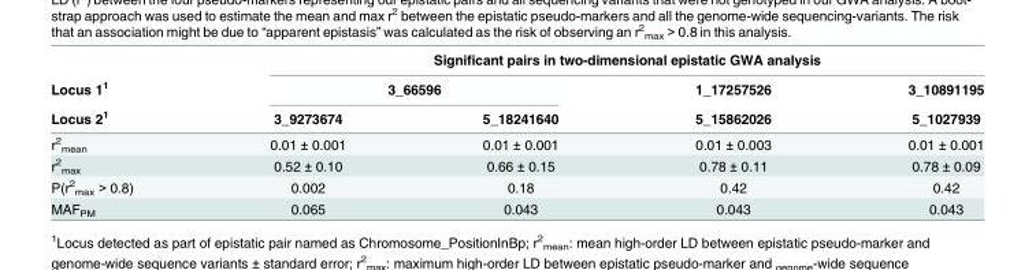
<table><thead><tr><td rowspan="3">Locus 1<sup>1</sup> Locus 2<sup>1</sup></td><td colspan="4">Significant pairs in two-dimensional epistatic GWA analysis</td></tr><tr><td colspan="2">3_66596</td><td rowspan="2">1_17257526 5_15862026</td><td rowspan="2">3_10891195 5_1027939</td></tr><tr><td>3_9273674</td><td>5_18241640</td></tr></thead><tbody><tr><td>r<sup>2</sup> <sub>mean</sub></td><td>0.01 ± 0.001</td><td>0.01 ± 0.001</td><td>0.01 ± 0.003</td><td>0.01 ± 0.001</td></tr><tr><td>r<sup>2</sup> <sub>max</sub></td><td>0.52 ± 0.10</td><td>0.66 ± 0.15</td><td>0.78 ± 0.11</td><td>0.78 ± 0.09</td></tr><tr><td>P(r<sup>2</sup> <sub>max</sub> &gt; 0.8)</td><td>0.002</td><td>0.18</td><td>0.42</td><td>0.42</td></tr><tr><td>MAF<sub>PM</sub></td><td>0.065</td><td>0.043</td><td>0.043</td><td>0.043</td></tr></tbody></table>